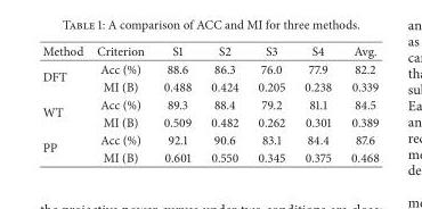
<table><thead><tr><td>Method</td><td>Criterion</td><td>S1</td><td>S2</td><td>S3</td><td>S4</td><td>Avg.</td></tr></thead><tbody><tr><td rowspan="2">DFT</td><td>Acc (%)</td><td>88.6</td><td>86.3</td><td>76.0</td><td>77.9</td><td>82.2</td></tr><tr><td>MI (B)</td><td>0.488</td><td>0.424</td><td>0.205</td><td>0.238</td><td>0.339</td></tr><tr><td rowspan="2">WT</td><td>Acc (%)</td><td>89.3</td><td>88.4</td><td>79.2</td><td>81.1</td><td>84.5</td></tr><tr><td>MI (B)</td><td>0.509</td><td>0.482</td><td>0.262</td><td>0.301</td><td>0.389</td></tr><tr><td rowspan="2">PP</td><td>Acc (%)</td><td>92.1</td><td>90.6</td><td>83.1</td><td>84.4</td><td>87.6</td></tr><tr><td>MI (B)</td><td>0.601</td><td>0.550</td><td>0.345</td><td>0.375</td><td>0.468</td></tr></tbody></table>